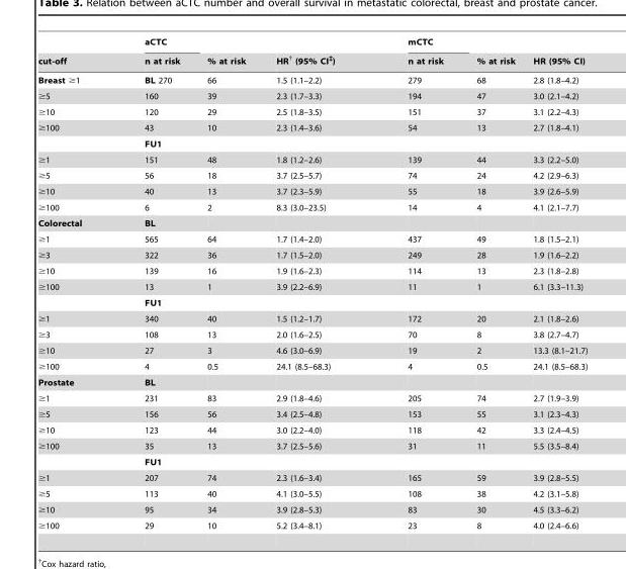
<table><thead><tr><td rowspan="2">cut-off</td><td rowspan="2">aCTC n at risk</td><td rowspan="2">% at risk</td><td rowspan="2">HR† (95% CI‡)</td><td rowspan="2">mCTC n at risk</td><td rowspan="2">% at risk</td><td rowspan="2">HR (95% CI)</td></tr><tr></tr></thead><tbody><tr><td>Breast ≥1</td><td>BL 270</td><td>66</td><td>1.5 (1.1–2.2)</td><td>279</td><td>68</td><td>2.8 (1.8–4.2)</td></tr><tr><td>≥5</td><td>160</td><td>39</td><td>2.3 (1.7–3.3)</td><td>194</td><td>47</td><td>3.0 (2.1–4.2)</td></tr><tr><td>≥10</td><td>120</td><td>29</td><td>2.5 (1.8–3.5)</td><td>151</td><td>37</td><td>3.1 (2.2–4.3)</td></tr><tr><td rowspan="2">≥100</td><td>43</td><td>10</td><td>2.3 (1.4–3.6)</td><td>54</td><td>13</td><td>2.7 (1.8–4.1)</td></tr><tr><td>FU1</td><td></td><td></td><td></td><td></td><td></td></tr><tr><td>≥1</td><td>151</td><td>48</td><td>1.8 (1.2–2.6)</td><td>139</td><td>44</td><td>3.3 (2.2–5.0)</td></tr><tr><td>≥5</td><td>56</td><td>18</td><td>3.7 (2.5–5.7)</td><td>74</td><td>24</td><td>4.2 (2.9–6.3)</td></tr><tr><td>≥10</td><td>40</td><td>13</td><td>3.7 (2.3–5.9)</td><td>55</td><td>18</td><td>3.9 (2.6–5.9)</td></tr><tr><td>≥100</td><td>6</td><td>2</td><td>8.3 (3.0–23.5)</td><td>14</td><td>4</td><td>4.1 (2.1–7.7)</td></tr><tr><td>Colorectal</td><td>BL</td><td></td><td></td><td></td><td></td><td></td></tr><tr><td>≥1</td><td>565</td><td>64</td><td>1.7 (1.4–2.0)</td><td>437</td><td>49</td><td>1.8 (1.5–2.1)</td></tr><tr><td>≥3</td><td>322</td><td>36</td><td>1.7 (1.5–2.0)</td><td>249</td><td>28</td><td>1.9 (1.6–2.2)</td></tr><tr><td>≥10</td><td>139</td><td>16</td><td>1.9 (1.6–2.3)</td><td>114</td><td>13</td><td>2.3 (1.8–2.8)</td></tr><tr><td rowspan="2">≥100</td><td>13</td><td>1</td><td>3.9 (2.2–6.9)</td><td>11</td><td>1</td><td>6.1 (3.3–11.3)</td></tr><tr><td>FU1</td><td></td><td></td><td></td><td></td><td></td></tr><tr><td>≥1</td><td>340</td><td>40</td><td>1.5 (1.2–1.7)</td><td>172</td><td>20</td><td>2.1 (1.8–2.6)</td></tr><tr><td>≥3</td><td>108</td><td>13</td><td>2.0 (1.6–2.5)</td><td>70</td><td>8</td><td>3.8 (2.7–4.7)</td></tr><tr><td>≥10</td><td>27</td><td>3</td><td>4.6 (3.0–6.9)</td><td>19</td><td>2</td><td>13.3 (8.1–21.7)</td></tr><tr><td>≥100</td><td>4</td><td>0.5</td><td>24.1 (8.5–68.3)</td><td>4</td><td>0.5</td><td>24.1 (8.5–68.3)</td></tr><tr><td>Prostate</td><td>BL</td><td></td><td></td><td></td><td></td><td></td></tr><tr><td>≥1</td><td>231</td><td>83</td><td>2.9 (1.8–4.6)</td><td>205</td><td>74</td><td>2.7 (1.9–3.9)</td></tr><tr><td>≥5</td><td>156</td><td>56</td><td>3.4 (2.5–4.8)</td><td>153</td><td>55</td><td>3.1 (2.3–4.3)</td></tr><tr><td>≥10</td><td>123</td><td>44</td><td>3.0 (2.2–4.0)</td><td>118</td><td>42</td><td>3.3 (2.4–4.5)</td></tr><tr><td rowspan="2">≥100</td><td>35</td><td>13</td><td>3.7 (2.5–5.6)</td><td>31</td><td>11</td><td>5.5 (3.5–8.4)</td></tr><tr><td>FU1</td><td></td><td></td><td></td><td></td><td></td></tr><tr><td>≥1</td><td>207</td><td>74</td><td>2.3 (1.6–3.4)</td><td>165</td><td>59</td><td>3.9 (2.8–5.5)</td></tr><tr><td>≥5</td><td>113</td><td>40</td><td>4.1 (3.0–5.5)</td><td>108</td><td>38</td><td>4.2 (3.1–5.8)</td></tr><tr><td>≥10</td><td>95</td><td>34</td><td>3.9 (2.8–5.3)</td><td>83</td><td>30</td><td>4.5 (3.3–6.2)</td></tr><tr><td>≥100</td><td>29</td><td>10</td><td>5.2 (3.4–8.1)</td><td>23</td><td>8</td><td>4.0 (2.4–6.6)</td></tr></tbody></table>